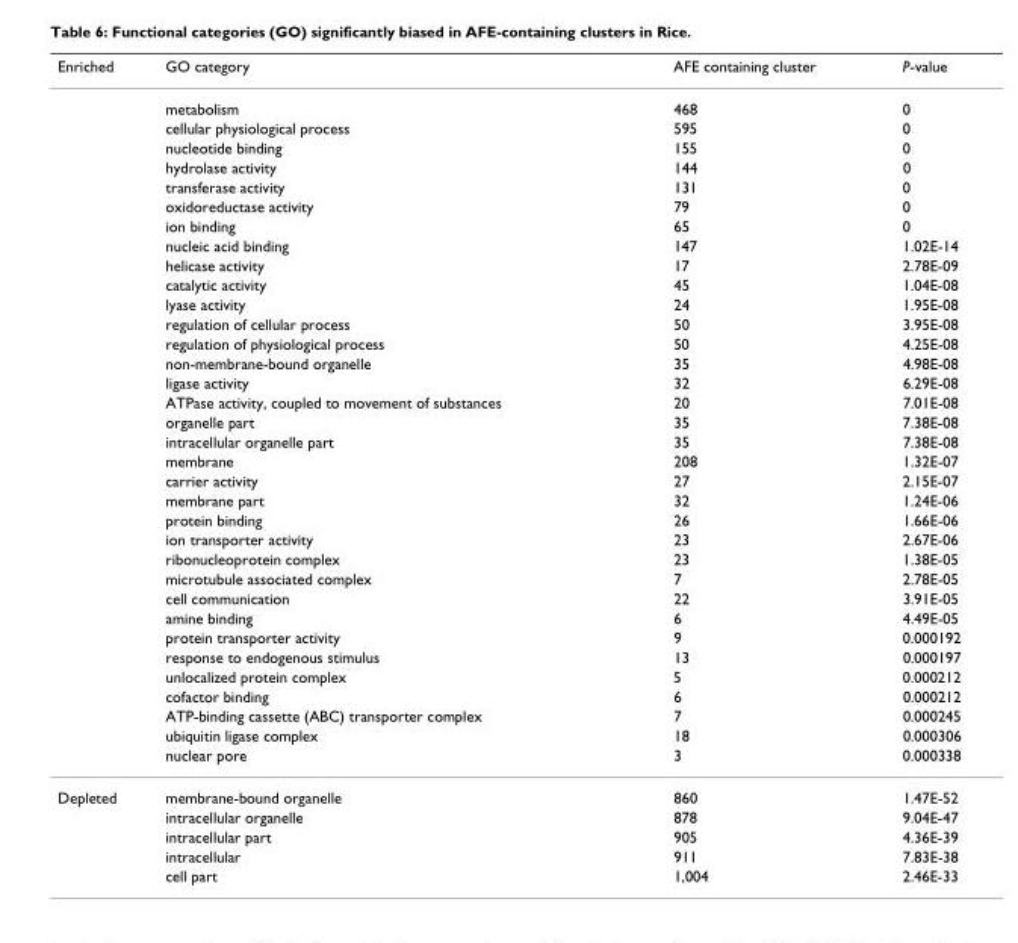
<table><thead><tr><td>Enriched</td><td>GO category</td><td>AFE containing cluster</td><td>P-value</td></tr></thead><tbody><tr><td></td><td>metabolism</td><td>468</td><td>0</td></tr><tr><td></td><td>cellular physiological process</td><td>595</td><td>0</td></tr><tr><td></td><td>nucleotide binding</td><td>155</td><td>0</td></tr><tr><td></td><td>hydrolase activity</td><td>144</td><td>0</td></tr><tr><td></td><td>transferase activity</td><td>131</td><td>0</td></tr><tr><td></td><td>oxidoreductase activity</td><td>79</td><td>0</td></tr><tr><td></td><td>ion binding</td><td>65</td><td>0</td></tr><tr><td></td><td>nucleic acid binding</td><td>147</td><td>1.02E-14</td></tr><tr><td></td><td>helicase activity</td><td>17</td><td>2.78E-09</td></tr><tr><td></td><td>catalytic activity</td><td>45</td><td>1.04E-08</td></tr><tr><td></td><td>lyase activity</td><td>24</td><td>1.95E-08</td></tr><tr><td></td><td>regulation of cellular process</td><td>50</td><td>3.95E-08</td></tr><tr><td></td><td>regulation of physiological process</td><td>50</td><td>4.25E-08</td></tr><tr><td></td><td>non-membrane-bound organelle</td><td>35</td><td>4.98E-08</td></tr><tr><td></td><td>ligase activity</td><td>32</td><td>6.29E-08</td></tr><tr><td></td><td>ATPase activity, coupled to movement of substances</td><td>20</td><td>7.01E-08</td></tr><tr><td></td><td>organelle part</td><td>35</td><td>7.38E-08</td></tr><tr><td></td><td>intracellular organelle part</td><td>35</td><td>7.38E-08</td></tr><tr><td></td><td>membrane</td><td>208</td><td>1.32E-07</td></tr><tr><td></td><td>carrier activity</td><td>27</td><td>2.15E-07</td></tr><tr><td></td><td>membrane part</td><td>32</td><td>1.24E-06</td></tr><tr><td></td><td>protein binding</td><td>26</td><td>1.66E-06</td></tr><tr><td></td><td>ion transporter activity</td><td>23</td><td>2.67E-06</td></tr><tr><td></td><td>ribonucleoprotein complex</td><td>23</td><td>1.38E-05</td></tr><tr><td></td><td>microtubule associated complex</td><td>7</td><td>2.78E-05</td></tr><tr><td></td><td>cell communication</td><td>22</td><td>3.91E-05</td></tr><tr><td></td><td>amine binding</td><td>6</td><td>4.49E-05</td></tr><tr><td></td><td>protein transporter activity</td><td>9</td><td>0.000192</td></tr><tr><td></td><td>response to endogenous stimulus</td><td>13</td><td>0.000197</td></tr><tr><td></td><td>unlocalized protein complex</td><td>5</td><td>0.000212</td></tr><tr><td></td><td>cofactor binding</td><td>6</td><td>0.000212</td></tr><tr><td></td><td>ATP-binding cassette (ABC) transporter complex</td><td>7</td><td>0.000245</td></tr><tr><td></td><td>ubiquitin ligase complex</td><td>18</td><td>0.000306</td></tr><tr><td></td><td>nuclear pore</td><td>3</td><td>0.000338</td></tr><tr><td rowspan="5">Depleted</td><td>membrane-bound organelle</td><td>860</td><td>1.47E-52</td></tr><tr><td>intracellular organelle</td><td>878</td><td>9.04E-47</td></tr><tr><td>intracellular part</td><td>905</td><td>4.36E-39</td></tr><tr><td>intracellular</td><td>911</td><td>7.83E-38</td></tr><tr><td>cell part</td><td>1,004</td><td>2.46E-33</td></tr></tbody></table>